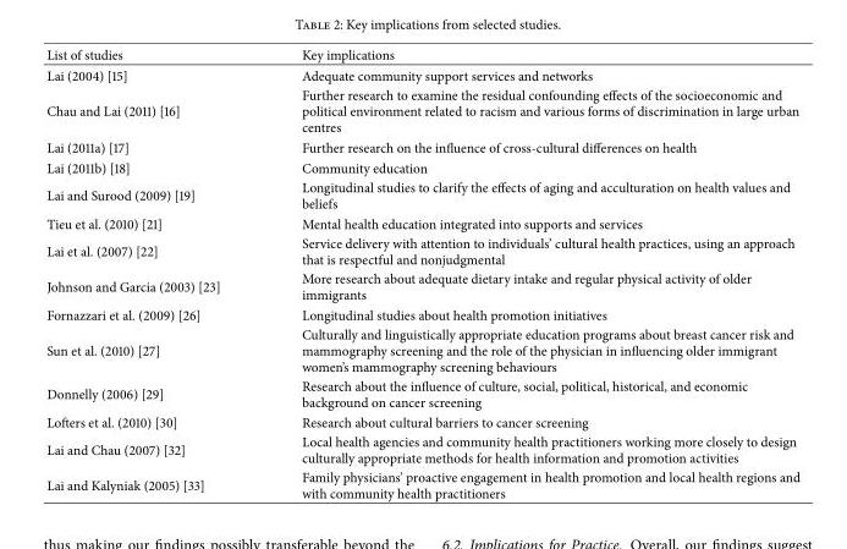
<table><thead><tr><td>List of studies</td><td>Key implications</td></tr></thead><tbody><tr><td>Lai (2004) [15]</td><td>Adequate community support services and networks</td></tr><tr><td>Chau and Lai (2011) [16]</td><td>Further research to examine the residual confounding effects of the socioeconomic and political environment related to racism and various forms of discrimination in large urban centres</td></tr><tr><td>Lai (2011a) [17]</td><td>Further research on the influence of cross-cultural differences on health</td></tr><tr><td>Lai (2011b) [18]</td><td>Community education</td></tr><tr><td>Lai and Surood (2009) [19]</td><td>Longitudinal studies to clarify the effects of aging and acculturation on health values and beliefs</td></tr><tr><td>Tieu et al. (2010) [21]</td><td>Mental health education integrated into supports and services</td></tr><tr><td>Lai et al. (2007) [22]</td><td>Service delivery with attention to individuals’ cultural health practices, using an approach that is respectful and nonjudgmental</td></tr><tr><td>Johnson and Garcia (2003) [23]</td><td>More research about adequate dietary intake and regular physical activity of older immigrants</td></tr><tr><td>Fornazzari et al. (2009) [26]</td><td>Longitudinal studies about health promotion initiatives</td></tr><tr><td>Sun et al. (2010) [27]</td><td>Culturally and linguistically appropriate education programs about breast cancer risk and mammography screening and the role of the physician in influencing older immigrant women’s mammography screening behaviours</td></tr><tr><td>Donnelly (2006) [29]</td><td>Research about the influence of culture, social, political, historical, and economic background on cancer screening</td></tr><tr><td>Lofters et al. (2010) [30]</td><td>Research about cultural barriers to cancer screening</td></tr><tr><td>Lai and Chau (2007) [32]</td><td>Local health agencies and community health practitioners working more closely to design culturally appropriate methods for health information and promotion activities</td></tr><tr><td>Lai and Kalyniak (2005) [33]</td><td>Family physicians’ proactive engagement in health promotion and local health regions and with community health practitioners</td></tr></tbody></table>